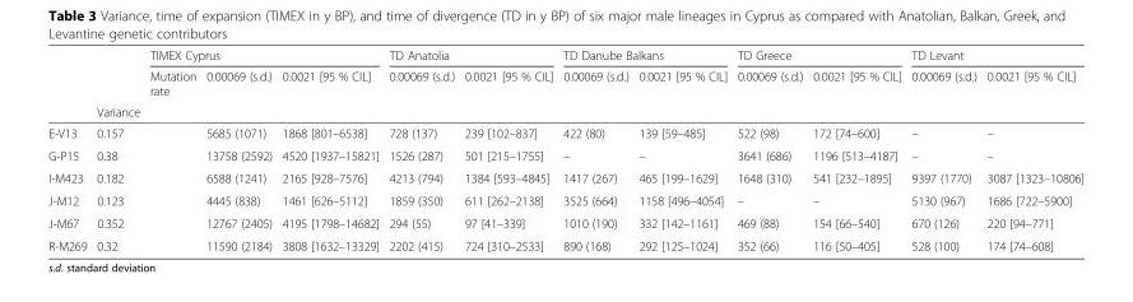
<table><thead><tr><td rowspan="3"></td><td rowspan="3">Variance</td><td colspan="3">TIMEX Cyprus</td><td colspan="2">TD Anatolia</td><td colspan="2">TD Danube Balkans</td><td colspan="2">TD Greece</td><td colspan="2">TD Levant</td></tr><tr><td rowspan="2">Mutation rate</td><td rowspan="2">0.00069 (s.d.)</td><td rowspan="2">0.0021 [95 % CIL]</td><td rowspan="2">0.00069 (s.d.)</td><td rowspan="2">0.0021 [95 % CIL]</td><td rowspan="2">0.00069 (s.d.)</td><td rowspan="2">0.0021 [95 % CIL]</td><td rowspan="2">0.00069 (s.d.)</td><td rowspan="2">0.0021 [95 % CIL]</td><td rowspan="2">0.00069 (s.d.)</td><td rowspan="2">0.0021 [95 % CIL]</td></tr><tr></tr></thead><tbody><tr><td>E-V13</td><td>0.157</td><td></td><td>5685 (1071)</td><td>1868 [801–6538]</td><td>728 (137)</td><td>239 [102–837]</td><td>422 (80)</td><td>139 [59–485]</td><td>522 (98)</td><td>172 [74–600]</td><td>–</td><td>–</td></tr><tr><td>G-P15</td><td>0.38</td><td></td><td>13758 (2592)</td><td>4520 [1937–15821]</td><td>1526 (287)</td><td>501 [215–1755]</td><td>–</td><td>–</td><td>3641 (686)</td><td>1196 [513–4187]</td><td>–</td><td>–</td></tr><tr><td>I-M423</td><td>0.182</td><td></td><td>6588 (1241)</td><td>2165 [928–7576]</td><td>4213 (794)</td><td>1384 [593–4845]</td><td>1417 (267)</td><td>465 [199–1629]</td><td>1648 (310)</td><td>541 [232–1895]</td><td>9397 (1770)</td><td>3087 [1323–10806]</td></tr><tr><td>J-M12</td><td>0.123</td><td></td><td>4445 (838)</td><td>1461 [626–5112]</td><td>1859 (350)</td><td>611 [262–2138]</td><td>3525 (664)</td><td>1158 [496–4054]</td><td>–</td><td>–</td><td>5130 (967)</td><td>1686 [722–5900]</td></tr><tr><td>J-M67</td><td>0.352</td><td></td><td>12767 (2405)</td><td>4195 [1798–14682]</td><td>294 (55)</td><td>97 [41–339]</td><td>1010 (190)</td><td>332 [142–1161]</td><td>469 (88)</td><td>154 [66–540]</td><td>670 (126)</td><td>220 [94–771]</td></tr><tr><td>R-M269</td><td>0.32</td><td></td><td>11590 (2184)</td><td>3808 [1632–13329]</td><td>2202 (415)</td><td>724 [310–2533]</td><td>890 (168)</td><td>292 [125–1024]</td><td>352 (66)</td><td>116 [50–405]</td><td>528 (100)</td><td>174 [74–608]</td></tr></tbody></table>